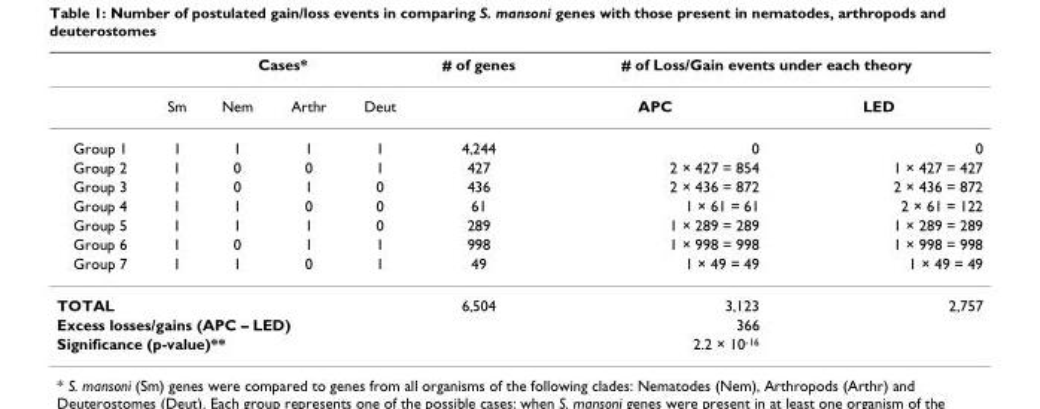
<table><thead><tr><td rowspan="2"></td><td colspan="4">Cases*</td><td rowspan="2"># of genes</td><td colspan="2"># of Loss/Gain events under each theory</td></tr><tr><td>Sm</td><td>Nem</td><td>Arthr</td><td>Deut</td><td>APC</td><td>LED</td></tr></thead><tbody><tr><td>Group 1</td><td>1</td><td>1</td><td>1</td><td>1</td><td>4,244</td><td>0</td><td>0</td></tr><tr><td>Group 2</td><td>1</td><td>0</td><td>0</td><td>1</td><td>427</td><td>2 × 427 = 854</td><td>1 × 427 = 427</td></tr><tr><td>Group 3</td><td>1</td><td>0</td><td>1</td><td>0</td><td>436</td><td>2 × 436 = 872</td><td>2 × 436 = 872</td></tr><tr><td>Group 4</td><td>1</td><td>1</td><td>0</td><td>0</td><td>61</td><td>1 × 61 = 61</td><td>2 × 61 = 122</td></tr><tr><td>Group 5</td><td>1</td><td>1</td><td>1</td><td>0</td><td>289</td><td>1 × 289 = 289</td><td>1 × 289 = 289</td></tr><tr><td>Group 6</td><td>1</td><td>0</td><td>1</td><td>1</td><td>998</td><td>1 × 998 = 998</td><td>1 × 998 = 998</td></tr><tr><td>Group 7</td><td>1</td><td>1</td><td>0</td><td>1</td><td>49</td><td>1 × 49 = 49</td><td>1 × 49 = 49</td></tr><tr><td colspan="5">TOTAL</td><td>6,504</td><td>3,123</td><td>2,757</td></tr><tr><td colspan="5">Excess losses/gains (APC – LED)</td><td></td><td>366</td><td></td></tr><tr><td colspan="5">Significance (p-value)**</td><td></td><td>2.2 × 10<sup>-16</sup></td><td></td></tr></tbody></table>